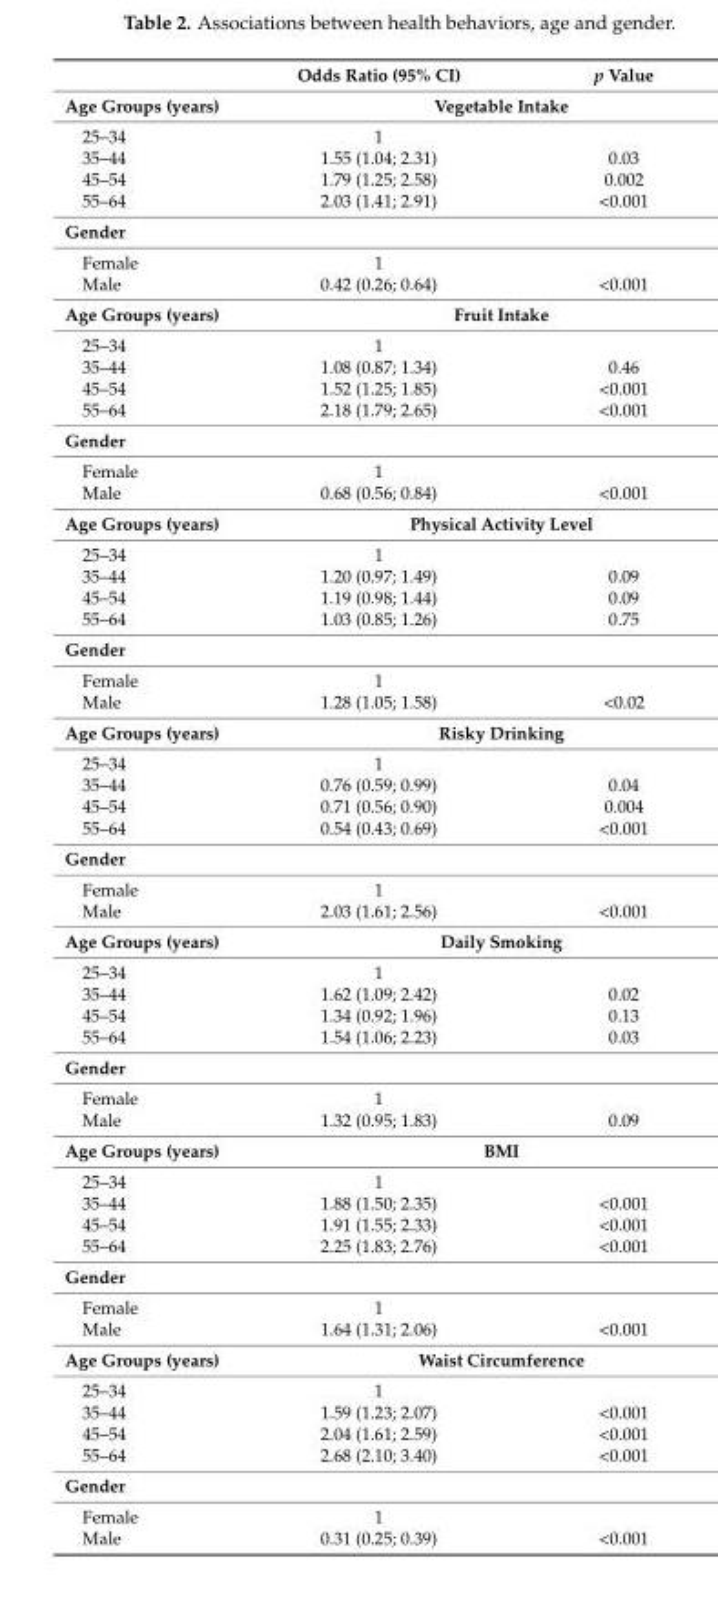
<table><thead><tr><td></td><td>Odds Ratio (95% CI)</td><td>p Value</td></tr></thead><tbody><tr><td>Age Groups (years)</td><td colspan="2">Vegetable Intake</td></tr><tr><td>25–34</td><td>1</td><td></td></tr><tr><td>35–44</td><td>1.55 (1.04; 2.31)</td><td>0.03</td></tr><tr><td>45–54</td><td>1.79 (1.25; 2.58)</td><td>0.002</td></tr><tr><td>55–64</td><td>2.03 (1.41; 2.91)</td><td>&lt;0.001</td></tr><tr><td colspan="3">Gender</td></tr><tr><td>Female</td><td>1</td><td></td></tr><tr><td>Male</td><td>0.42 (0.26; 0.64)</td><td>&lt;0.001</td></tr><tr><td>Age Groups (years)</td><td colspan="2">Fruit Intake</td></tr><tr><td>25–34</td><td>1</td><td></td></tr><tr><td>35–44</td><td>1.08 (0.87; 1.34)</td><td>0.46</td></tr><tr><td>45–54</td><td>1.52 (1.25; 1.85)</td><td>&lt;0.001</td></tr><tr><td>55–64</td><td>2.18 (1.79; 2.65)</td><td>&lt;0.001</td></tr><tr><td colspan="3">Gender</td></tr><tr><td>Female</td><td>1</td><td></td></tr><tr><td>Male</td><td>0.68 (0.56; 0.84)</td><td>&lt;0.001</td></tr><tr><td>Age Groups (years)</td><td colspan="2">Physical Activity Level</td></tr><tr><td>25–34</td><td>1</td><td></td></tr><tr><td>35–44</td><td>1.20 (0.97; 1.49)</td><td>0.09</td></tr><tr><td>45–54</td><td>1.19 (0.98; 1.44)</td><td>0.09</td></tr><tr><td>55–64</td><td>1.03 (0.85; 1.26)</td><td>0.75</td></tr><tr><td colspan="3">Gender</td></tr><tr><td>Female</td><td>1</td><td></td></tr><tr><td>Male</td><td>1.28 (1.05; 1.58)</td><td>&lt;0.02</td></tr><tr><td>Age Groups (years)</td><td colspan="2">Risky Drinking</td></tr><tr><td>25–34</td><td>1</td><td></td></tr><tr><td>35–44</td><td>0.76 (0.59; 0.99)</td><td>0.04</td></tr><tr><td>45–54</td><td>0.71 (0.56; 0.90)</td><td>0.004</td></tr><tr><td>55–64</td><td>0.54 (0.43; 0.69)</td><td>&lt;0.001</td></tr><tr><td colspan="3">Gender</td></tr><tr><td>Female</td><td>1</td><td></td></tr><tr><td>Male</td><td>2.03 (1.61; 2.56)</td><td>&lt;0.001</td></tr><tr><td>Age Groups (years)</td><td colspan="2">Daily Smoking</td></tr><tr><td>25–34</td><td>1</td><td></td></tr><tr><td>35–44</td><td>1.62 (1.09; 2.42)</td><td>0.02</td></tr><tr><td>45–54</td><td>1.34 (0.92; 1.96)</td><td>0.13</td></tr><tr><td>55–64</td><td>1.54 (1.06; 2.23)</td><td>0.03</td></tr><tr><td colspan="3">Gender</td></tr><tr><td>Female</td><td>1</td><td></td></tr><tr><td>Male</td><td>1.32 (0.95; 1.83)</td><td>0.09</td></tr><tr><td>Age Groups (years)</td><td colspan="2">BMI</td></tr><tr><td>25–34</td><td>1</td><td></td></tr><tr><td>35–44</td><td>1.88 (1.50; 2.35)</td><td>&lt;0.001</td></tr><tr><td>45–54</td><td>1.91 (1.55; 2.33)</td><td>&lt;0.001</td></tr><tr><td>55–64</td><td>2.25 (1.83; 2.76)</td><td>&lt;0.001</td></tr><tr><td colspan="3">Gender</td></tr><tr><td>Female</td><td>1</td><td></td></tr><tr><td>Male</td><td>1.64 (1.31; 2.06)</td><td>&lt;0.001</td></tr><tr><td>Age Groups (years)</td><td colspan="2">Waist Circumference</td></tr><tr><td>25–34</td><td>1</td><td></td></tr><tr><td>35–44</td><td>1.59 (1.23; 2.07)</td><td>&lt;0.001</td></tr><tr><td>45–54</td><td>2.04 (1.61; 2.59)</td><td>&lt;0.001</td></tr><tr><td>55–64</td><td>2.68 (2.10; 3.40)</td><td>&lt;0.001</td></tr><tr><td colspan="3">Gender</td></tr><tr><td>Female</td><td>1</td><td></td></tr><tr><td>Male</td><td>0.31 (0.25; 0.39)</td><td>&lt;0.001</td></tr></tbody></table>